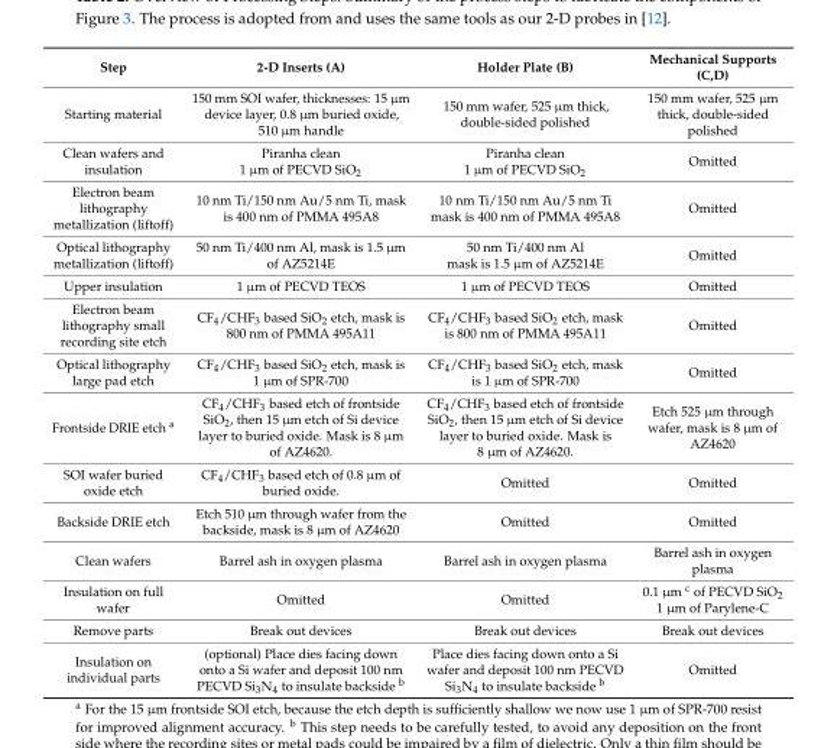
<table><thead><tr><td>Step</td><td>2-D Inserts (A)</td><td>Holder Plate (B)</td><td>Mechanical Supports (C,D)</td></tr></thead><tbody><tr><td>Starting material</td><td>150 mm SOI wafer, thicknesses: 15 µm device layer, 0.8 µm buried oxide, 510 µm handle</td><td>150 mm wafer, 525 µm thick, double-sided polished</td><td>150 mm wafer, 525 µm thick, double-sided polished</td></tr><tr><td>Clean wafers and insulation</td><td>Piranha clean 1 µm of PECVD SiO<sub>2</sub></td><td>Piranha clean 1 µm of PECVD SiO<sub>2</sub></td><td>Omitted</td></tr><tr><td>Electron beam lithography metallization (liftoff)</td><td>10 nm Ti/150 nm Au/5 nm Ti, mask is 400 nm of PMMA 495A8</td><td>10 nm Ti/150 nm Au/5 nm Ti mask is 400 nm of PMMA 495A8</td><td>Omitted</td></tr><tr><td>Optical lithography metallization (liftoff)</td><td>50 nm Ti/400 nm Al, mask is 1.5 µm of AZ5214E</td><td>50 nm Ti/400 nm Al mask is 1.5 µm of AZ5214E</td><td>Omitted</td></tr><tr><td>Upper insulation</td><td>1 µm of PECVD TEOS</td><td>1 µm of PECVD TEOS</td><td>Omitted</td></tr><tr><td>Electron beam lithography small recording site etch</td><td>CF<sub>4</sub>/CHF<sub>3</sub> based SiO<sub>2</sub> etch, mask is 800 nm of PMMA 495A11</td><td>CF<sub>4</sub>/CHF<sub>3</sub> based SiO<sub>2</sub> etch, mask is 800 nm of PMMA 495A11</td><td>Omitted</td></tr><tr><td>Optical lithography large pad etch</td><td>CF<sub>4</sub>/CHF<sub>3</sub> based SiO<sub>2</sub> etch, mask is 1 µm of SPR-700</td><td>CF<sub>4</sub>/CHF<sub>3</sub> based SiO<sub>2</sub> etch, mask is 1 µm of SPR-700</td><td>Omitted</td></tr><tr><td>Frontside DRIE etch <sup>a</sup></td><td>CF<sub>4</sub>/CHF<sub>3</sub> based etch of frontside SiO<sub>2</sub>, then 15 µm etch of Si device layer to buried oxide. Mask is 8 µm of AZ4620.</td><td>CF<sub>4</sub>/CHF<sub>3</sub> based etch of frontside SiO<sub>2</sub>, then 15 µm etch of Si device layer to buried oxide. Mask is 8 µm of AZ4620.</td><td>Etch 525 µm through wafer, mask is 8 µm of AZ4620</td></tr><tr><td>SOI wafer buried oxide etch</td><td>CF<sub>4</sub>/CHF<sub>3</sub> based etch of 0.8 µm of buried oxide.</td><td>Omitted</td><td>Omitted</td></tr><tr><td>Backside DRIE etch</td><td>Etch 510 µm through wafer from the backside, mask is 8 µm of AZ4620</td><td>Omitted</td><td>Omitted</td></tr><tr><td>Clean wafers</td><td>Barrel ash in oxygen plasma</td><td>Barrel ash in oxygen plasma</td><td>Barrel ash in oxygen plasma</td></tr><tr><td>Insulation on full wafer</td><td>Omitted</td><td>Omitted</td><td>0.1 µm <sup>c</sup> of PECVD SiO<sub>2</sub> 1 µm of Parylene-C</td></tr><tr><td>Remove parts</td><td>Break out devices</td><td>Break out devices</td><td>Break out devices</td></tr><tr><td>Insulation on individual parts</td><td>(optional) Place dies facing down onto a Si wafer and deposit 100 nm PECVD Si<sub>3</sub>N<sub>4</sub> to insulate backside <sup>b</sup></td><td>Place dies facing down onto a Si wafer and deposit 100 nm PECVD Si<sub>3</sub>N<sub>4</sub> to insulate backside <sup>b</sup></td><td>Omitted</td></tr></tbody></table>